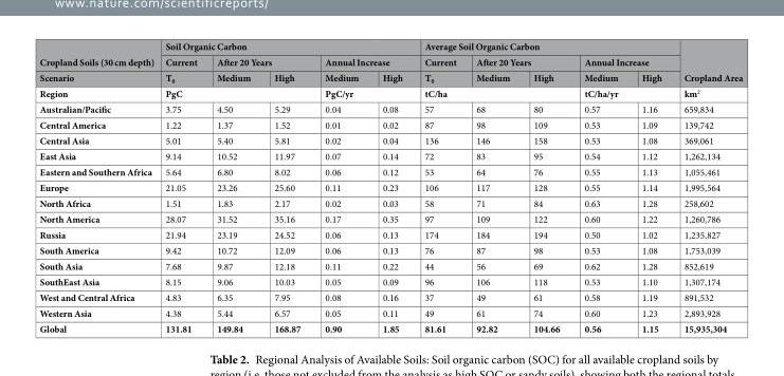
<table><thead><tr><td rowspan="3">Cropland Soils (30 cm depth) Scenario</td><td colspan="5">Soil Organic Carbon</td><td colspan="5">Average Soil Organic Carbon</td><td rowspan="3">Cropland Area</td></tr><tr><td rowspan="2">Current T<sub>0</sub></td><td colspan="2">After 20 Years</td><td colspan="2">Annual Increase</td><td rowspan="2">Current T<sub>0</sub></td><td colspan="2">After 20 Years</td><td colspan="2">Annual Increase</td></tr><tr><td>Medium</td><td>High</td><td>Medium</td><td>High</td><td>Medium</td><td>High</td><td>Medium</td><td>High</td></tr></thead><tbody><tr><td>Region</td><td colspan="3">PgC</td><td colspan="2">PgC/yr</td><td colspan="3">tC/ha</td><td colspan="2">tC/ha/yr</td><td>km<sup>2</sup></td></tr><tr><td>Australian/Pacific</td><td>3.75</td><td>4.50</td><td>5.29</td><td>0.04</td><td>0.08</td><td>57</td><td>68</td><td>80</td><td>0.57</td><td>1.16</td><td>659,834</td></tr><tr><td>Central America</td><td>1.22</td><td>1.37</td><td>1.52</td><td>0.01</td><td>0.02</td><td>87</td><td>98</td><td>109</td><td>0.53</td><td>1.09</td><td>139,742</td></tr><tr><td>Central Asia</td><td>5.01</td><td>5.40</td><td>5.81</td><td>0.02</td><td>0.04</td><td>136</td><td>146</td><td>158</td><td>0.53</td><td>1.08</td><td>369,061</td></tr><tr><td>East Asia</td><td>9.14</td><td>10.52</td><td>11.97</td><td>0.07</td><td>0.14</td><td>72</td><td>83</td><td>95</td><td>0.54</td><td>1.12</td><td>1,262,134</td></tr><tr><td>Eastern and Southern Africa</td><td>5.64</td><td>6.80</td><td>8.02</td><td>0.06</td><td>0.12</td><td>53</td><td>64</td><td>76</td><td>0.55</td><td>1.13</td><td>1,055,461</td></tr><tr><td>Europe</td><td>21.05</td><td>23.26</td><td>25.60</td><td>0.11</td><td>0.23</td><td>106</td><td>117</td><td>128</td><td>0.55</td><td>1.14</td><td>1,995,564</td></tr><tr><td>North Africa</td><td>1.51</td><td>1.83</td><td>2.17</td><td>0.02</td><td>0.03</td><td>58</td><td>71</td><td>84</td><td>0.63</td><td>1.28</td><td>258,602</td></tr><tr><td>North America</td><td>28.07</td><td>31.52</td><td>35.16</td><td>0.17</td><td>0.35</td><td>97</td><td>109</td><td>122</td><td>0.60</td><td>1.22</td><td>1,260,786</td></tr><tr><td>Russia</td><td>21.94</td><td>23.19</td><td>24.52</td><td>0.06</td><td>0.13</td><td>174</td><td>184</td><td>194</td><td>0.50</td><td>1.02</td><td>1,235,827</td></tr><tr><td>South America</td><td>9.42</td><td>10.72</td><td>12.09</td><td>0.06</td><td>0.13</td><td>76</td><td>87</td><td>98</td><td>0.53</td><td>1.08</td><td>1,753,039</td></tr><tr><td>South Asia</td><td>7.68</td><td>9.87</td><td>12.18</td><td>0.11</td><td>0.22</td><td>44</td><td>56</td><td>69</td><td>0.62</td><td>1.28</td><td>852,619</td></tr><tr><td>SouthEast Asia</td><td>8.15</td><td>9.06</td><td>10.03</td><td>0.05</td><td>0.09</td><td>96</td><td>106</td><td>118</td><td>0.53</td><td>1.10</td><td>1,307,174</td></tr><tr><td>West and Central Africa</td><td>4.83</td><td>6.35</td><td>7.95</td><td>0.08</td><td>0.16</td><td>37</td><td>49</td><td>61</td><td>0.58</td><td>1.19</td><td>891,532</td></tr><tr><td>Western Asia</td><td>4.38</td><td>5.44</td><td>6.57</td><td>0.05</td><td>0.11</td><td>49</td><td>61</td><td>74</td><td>0.60</td><td>1.23</td><td>2,893,928</td></tr><tr><td>Global</td><td>131.81</td><td>149.84</td><td>168.87</td><td>0.90</td><td>1.85</td><td>81.61</td><td>92.82</td><td>104.66</td><td>0.56</td><td>1.15</td><td>15,935,304</td></tr></tbody></table>